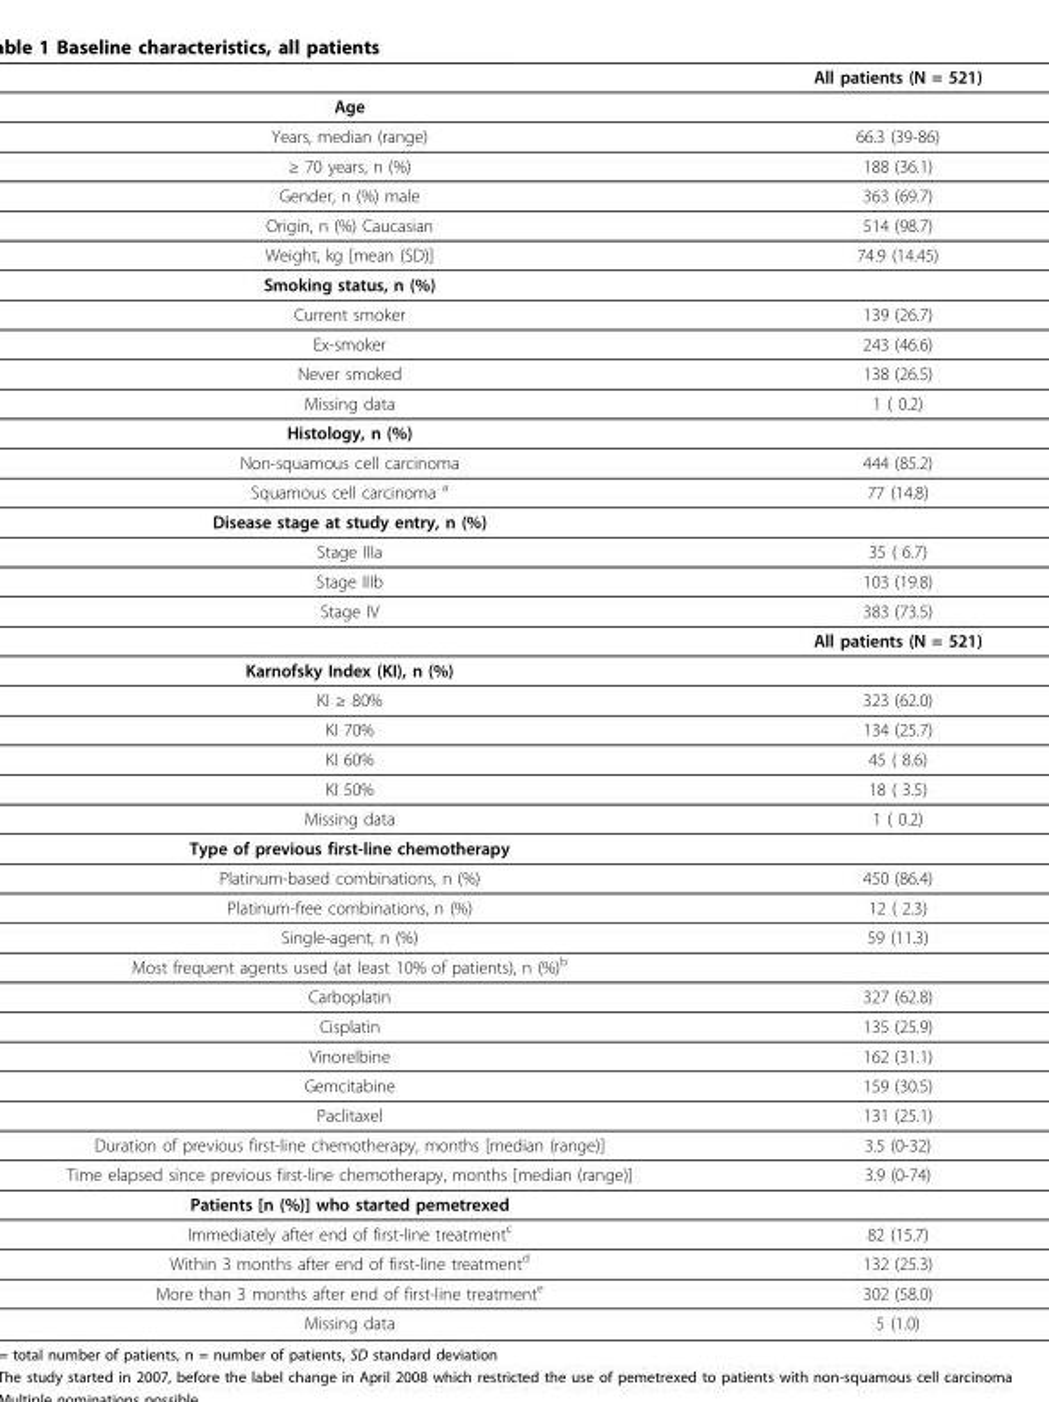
<table><thead><tr><td></td><td>All patients (N = 521)</td></tr></thead><tbody><tr><td colspan="2">Age</td></tr><tr><td>Years, median (range)</td><td>66.3 (39-86)</td></tr><tr><td>≥ 70 years, n (%)</td><td>188 (36.1)</td></tr><tr><td>Gender, n (%) male</td><td>363 (69.7)</td></tr><tr><td>Origin, n (%) Caucasian</td><td>514 (98.7)</td></tr><tr><td>Weight, kg [mean (SD)]</td><td>74.9 (14.45)</td></tr><tr><td colspan="2">Smoking status, n (%)</td></tr><tr><td>Current smoker</td><td>139 (26.7)</td></tr><tr><td>Ex-smoker</td><td>243 (46.6)</td></tr><tr><td>Never smoked</td><td>138 (26.5)</td></tr><tr><td>Missing data</td><td>1 ( 0.2)</td></tr><tr><td colspan="2">Histology, n (%)</td></tr><tr><td>Non-squamous cell carcinoma</td><td>444 (85.2)</td></tr><tr><td>Squamous cell carcinoma <sup>a</sup></td><td>77 (14.8)</td></tr><tr><td colspan="2">Disease stage at study entry, n (%)</td></tr><tr><td>Stage IIIa</td><td>35 ( 6.7)</td></tr><tr><td>Stage IIIb</td><td>103 (19.8)</td></tr><tr><td rowspan="2">Stage IV</td><td>383 (73.5)</td></tr><tr><td>All patients (N = 521)</td></tr><tr><td colspan="2">Karnofsky Index (KI), n (%)</td></tr><tr><td>KI ≥ 80%</td><td>323 (62.0)</td></tr><tr><td>KI 70%</td><td>134 (25.7)</td></tr><tr><td>KI 60%</td><td>45 ( 8.6)</td></tr><tr><td>KI 50%</td><td>18 ( 3.5)</td></tr><tr><td>Missing data</td><td>1 ( 0.2)</td></tr><tr><td colspan="2">Type of previous first-line chemotherapy</td></tr><tr><td>Platinum-based combinations, n (%)</td><td>450 (86.4)</td></tr><tr><td>Platinum-free combinations, n (%)</td><td>12 ( 2.3)</td></tr><tr><td>Single-agent, n (%)</td><td>59 (11.3)</td></tr><tr><td colspan="2">Most frequent agents used (at least 10% of patients), n (%)<sup>b</sup></td></tr><tr><td>Carboplatin</td><td>327 (62.8)</td></tr><tr><td>Cisplatin</td><td>135 (25.9)</td></tr><tr><td>Vinorelbine</td><td>162 (31.1)</td></tr><tr><td>Gemcitabine</td><td>159 (30.5)</td></tr><tr><td>Paclitaxel</td><td>131 (25.1)</td></tr><tr><td>Duration of previous first-line chemotherapy, months [median (range)]</td><td>3.5 (0-32)</td></tr><tr><td>Time elapsed since previous first-line chemotherapy, months [median (range)]</td><td>3.9 (0-74)</td></tr><tr><td colspan="2">Patients [n (%)] who started pemetrexed</td></tr><tr><td>Immediately after end of first-line treatment<sup>c</sup></td><td>82 (15.7)</td></tr><tr><td>Within 3 months after end of first-line treatment<sup>d</sup></td><td>132 (25.3)</td></tr><tr><td>More than 3 months after end of first-line treatment<sup>e</sup></td><td>302 (58.0)</td></tr><tr><td>Missing data</td><td>5 (1.0)</td></tr></tbody></table>